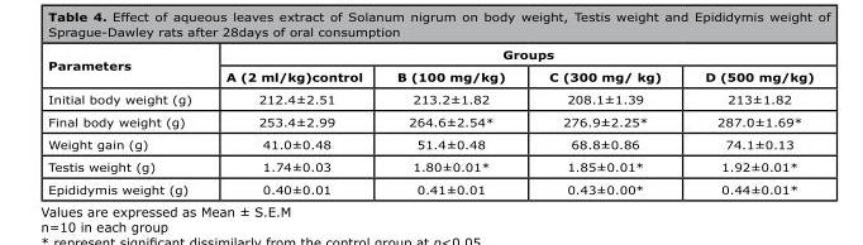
<table><thead><tr><td rowspan="2">Parameters</td><td colspan="4">Groups</td></tr><tr><td>A (2 ml/kg)control</td><td>B (100 mg/kg)</td><td>C (300 mg/ kg)</td><td>D (500 mg/kg)</td></tr></thead><tbody><tr><td>Initial body weight (g)</td><td>212.4±2.51</td><td>213.2±1.82</td><td>208.1±1.39</td><td>213±1.82</td></tr><tr><td>Final body weight (g)</td><td>253.4±2.99</td><td>264.6±2.54*</td><td>276.9±2.25*</td><td>287.0±1.69*</td></tr><tr><td>Weight gain (g)</td><td>41.0±0.48</td><td>51.4±0.48</td><td>68.8±0.86</td><td>74.1±0.13</td></tr><tr><td>Testis weight (g)</td><td>1.74±0.03</td><td>1.80±0.01*</td><td>1.85±0.01*</td><td>1.92±0.01*</td></tr><tr><td>Epididymis weight (g)</td><td>0.40±0.01</td><td>0.41±0.01</td><td>0.43±0.00*</td><td>0.44±0.01*</td></tr></tbody></table>